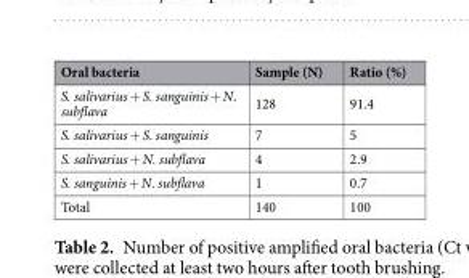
<table><thead><tr><td>Oral bacteria</td><td>Sample (N)</td><td>Ratio (%)</td></tr></thead><tbody><tr><td>S. salivarius + S. sanguinis + N. subflava</td><td>128</td><td>91.4</td></tr><tr><td>S. salivarius + S. sanguinis</td><td>7</td><td>5</td></tr><tr><td>S. salivarius + N. subflava</td><td>4</td><td>2.9</td></tr><tr><td>S. sanguinis + N. subflava</td><td>1</td><td>0.7</td></tr><tr><td>Total</td><td>140</td><td>100</td></tr></tbody></table>